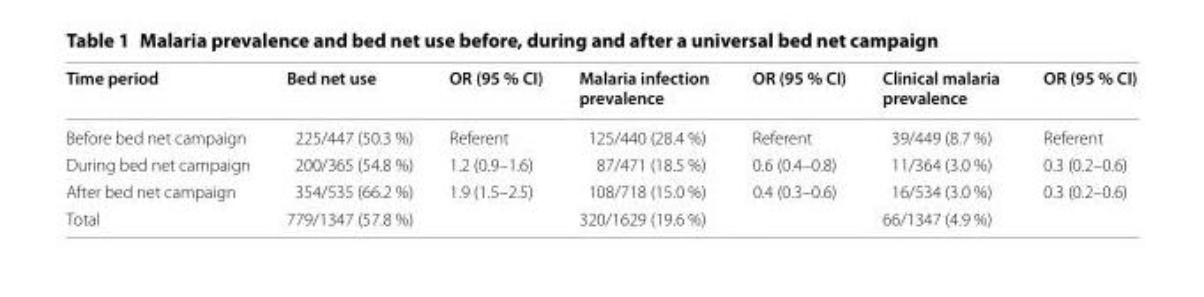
<table><thead><tr><td>Time period</td><td>Bed net use</td><td>OR (95 % CI)</td><td>Malaria infection prevalence</td><td>OR (95 % CI)</td><td>Clinical malaria prevalence</td><td>OR (95 % CI)</td></tr></thead><tbody><tr><td>Before bed net campaign</td><td>225/447 (50.3 %)</td><td>Referent</td><td>125/440 (28.4 %)</td><td>Referent</td><td>39/449 (8.7 %)</td><td>Referent</td></tr><tr><td>During bed net campaign</td><td>200/365 (54.8 %)</td><td>1.2 (0.9–1.6)</td><td>87/471 (18.5 %)</td><td>0.6 (0.4–0.8)</td><td>11/364 (3.0 %)</td><td>0.3 (0.2–0.6)</td></tr><tr><td>After bed net campaign</td><td>354/535 (66.2 %)</td><td>1.9 (1.5–2.5)</td><td>108/718 (15.0 %)</td><td>0.4 (0.3–0.6)</td><td>16/534 (3.0 %)</td><td>0.3 (0.2–0.6)</td></tr><tr><td>Total</td><td>779/1347 (57.8 %)</td><td></td><td>320/1629 (19.6 %)</td><td></td><td>66/1347 (4.9 %)</td><td></td></tr></tbody></table>